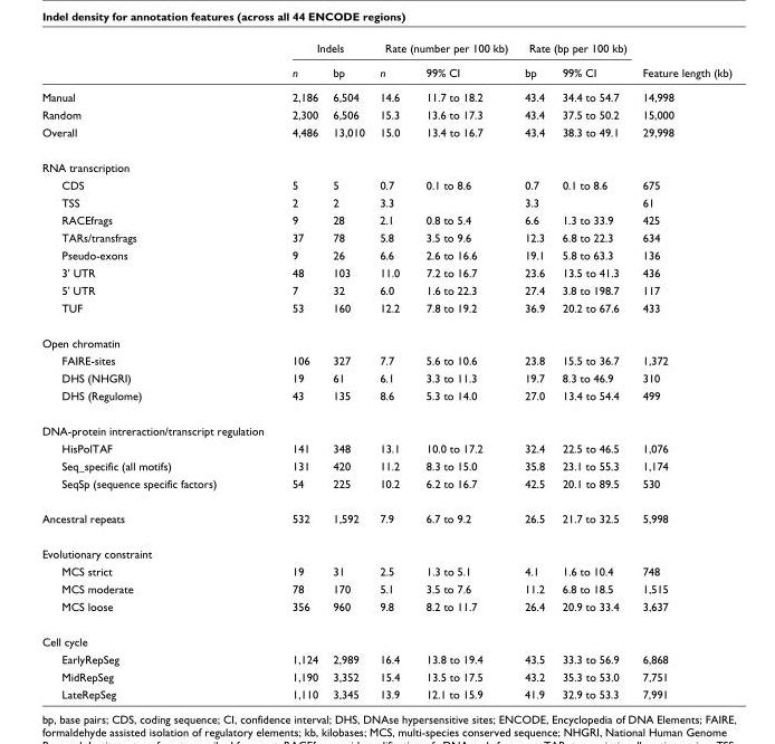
<table><thead><tr><td rowspan="2"></td><td colspan="2">Indels</td><td colspan="2">Rate (number per 100 kb)</td><td colspan="2">Rate (bp per 100 kb)</td><td rowspan="2">Feature length (kb)</td></tr><tr><td>n</td><td>bp</td><td>n</td><td>99% CI</td><td>bp</td><td>99% CI</td></tr></thead><tbody><tr><td>Manual</td><td>2,186</td><td>6,504</td><td>14.6</td><td>11.7 to 18.2</td><td>43.4</td><td>34.4 to 54.7</td><td>14,998</td></tr><tr><td>Random</td><td>2,300</td><td>6,506</td><td>15.3</td><td>13.6 to 17.3</td><td>43.4</td><td>37.5 to 50.2</td><td>15,000</td></tr><tr><td>Overall</td><td>4,486</td><td>13,010</td><td>15.0</td><td>13.4 to 16.7</td><td>43.4</td><td>38.3 to 49.1</td><td>29,998</td></tr><tr><td colspan="8">RNA transcription</td></tr><tr><td>CDS</td><td>5</td><td>5</td><td>0.7</td><td>0.1 to 8.6</td><td>0.7</td><td>0.1 to 8.6</td><td>675</td></tr><tr><td>TSS</td><td>2</td><td>2</td><td>3.3</td><td></td><td>3.3</td><td></td><td>61</td></tr><tr><td>RACEfrags</td><td>9</td><td>28</td><td>2.1</td><td>0.8 to 5.4</td><td>6.6</td><td>1.3 to 33.9</td><td>425</td></tr><tr><td>TARs/transfrags</td><td>37</td><td>78</td><td>5.8</td><td>3.5 to 9.6</td><td>12.3</td><td>6.8 to 22.3</td><td>634</td></tr><tr><td>Pseudo-exons</td><td>9</td><td>26</td><td>6.6</td><td>2.6 to 16.6</td><td>19.1</td><td>5.8 to 63.3</td><td>136</td></tr><tr><td>3&#x27; UTR</td><td>48</td><td>103</td><td>11.0</td><td>7.2 to 16.7</td><td>23.6</td><td>13.5 to 41.3</td><td>436</td></tr><tr><td>5&#x27; UTR</td><td>7</td><td>32</td><td>6.0</td><td>1.6 to 22.3</td><td>27.4</td><td>3.8 to 198.7</td><td>117</td></tr><tr><td>TUF</td><td>53</td><td>160</td><td>12.2</td><td>7.8 to 19.2</td><td>36.9</td><td>20.2 to 67.6</td><td>433</td></tr><tr><td colspan="8">Open chromatin</td></tr><tr><td>FAIRE-sites</td><td>106</td><td>327</td><td>7.7</td><td>5.6 to 10.6</td><td>23.8</td><td>15.5 to 36.7</td><td>1,372</td></tr><tr><td>DHS (NHGRI)</td><td>19</td><td>61</td><td>6.1</td><td>3.3 to 11.3</td><td>19.7</td><td>8.3 to 46.9</td><td>310</td></tr><tr><td>DHS (Regulome)</td><td>43</td><td>135</td><td>8.6</td><td>5.3 to 14.0</td><td>27.0</td><td>13.4 to 54.4</td><td>499</td></tr><tr><td colspan="8">DNA-protein intreraction/transcript regulation</td></tr><tr><td>HisPolTAF</td><td>141</td><td>348</td><td>13.1</td><td>10.0 to 17.2</td><td>32.4</td><td>22.5 to 46.5</td><td>1,076</td></tr><tr><td>Seq_specific (all motifs)</td><td>131</td><td>420</td><td>11.2</td><td>8.3 to 15.0</td><td>35.8</td><td>23.1 to 55.3</td><td>1,174</td></tr><tr><td>SeqSp (sequence specific factors)</td><td>54</td><td>225</td><td>10.2</td><td>6.2 to 16.7</td><td>42.5</td><td>20.1 to 89.5</td><td>530</td></tr><tr><td>Ancestral repeats</td><td>532</td><td>1,592</td><td>7.9</td><td>6.7 to 9.2</td><td>26.5</td><td>21.7 to 32.5</td><td>5,998</td></tr><tr><td colspan="8">Evolutionary constraint</td></tr><tr><td>MCS strict</td><td>19</td><td>31</td><td>2.5</td><td>1.3 to 5.1</td><td>4.1</td><td>1.6 to 10.4</td><td>748</td></tr><tr><td>MCS moderate</td><td>78</td><td>170</td><td>5.1</td><td>3.5 to 7.6</td><td>11.2</td><td>6.8 to 18.5</td><td>1,515</td></tr><tr><td>MCS loose</td><td>356</td><td>960</td><td>9.8</td><td>8.2 to 11.7</td><td>26.4</td><td>20.9 to 33.4</td><td>3,637</td></tr><tr><td colspan="8">Cell cycle</td></tr><tr><td>EarlyRepSeg</td><td>1,124</td><td>2,989</td><td>16.4</td><td>13.8 to 19.4</td><td>43.5</td><td>33.3 to 56.9</td><td>6,868</td></tr><tr><td>MidRepSeg</td><td>1,190</td><td>3,352</td><td>15.4</td><td>13.5 to 17.5</td><td>43.2</td><td>35.3 to 53.0</td><td>7,751</td></tr><tr><td>LateRepSeg</td><td>1,110</td><td>3,345</td><td>13.9</td><td>12.1 to 15.9</td><td>41.9</td><td>32.9 to 53.3</td><td>7,991</td></tr></tbody></table>